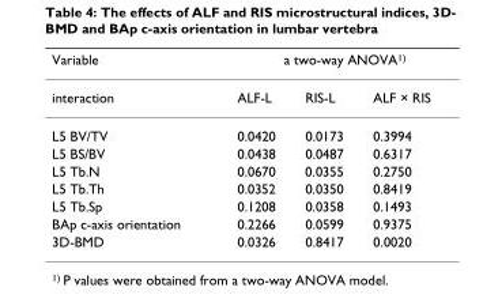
<table><thead><tr><td rowspan="2">Variable interaction</td><td colspan="3">a two-way ANOVA1)</td></tr><tr><td>ALF-L</td><td>RIS-L</td><td>ALF × RIS</td></tr></thead><tbody><tr><td>L5 BV/TV</td><td>0.0420</td><td>0.0173</td><td>0.3994</td></tr><tr><td>L5 BS/BV</td><td>0.0438</td><td>0.0487</td><td>0.6317</td></tr><tr><td>L5 Tb.N</td><td>0.0670</td><td>0.0355</td><td>0.2750</td></tr><tr><td>L5 Tb.Th</td><td>0.0352</td><td>0.0350</td><td>0.8419</td></tr><tr><td>L5 Tb.Sp</td><td>0.1208</td><td>0.0358</td><td>0.1493</td></tr><tr><td>BAp c-axis orientation</td><td>0.2266</td><td>0.0599</td><td>0.9375</td></tr><tr><td>3D-BMD</td><td>0.0326</td><td>0.8417</td><td>0.0020</td></tr></tbody></table>